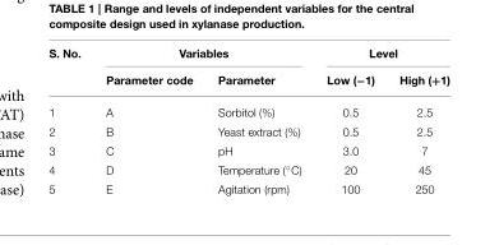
<table><thead><tr><td rowspan="2">S. No.</td><td colspan="2">Variables</td><td colspan="2">Level</td></tr><tr><td>Parameter code</td><td>Parameter</td><td>Low (−1)</td><td>High (+1)</td></tr></thead><tbody><tr><td>1</td><td>A</td><td>Sorbitol (%)</td><td>0.5</td><td>2.5</td></tr><tr><td>2</td><td>B</td><td>Yeast extract (%)</td><td>0.5</td><td>2.5</td></tr><tr><td>3</td><td>C</td><td>pH</td><td>3.0</td><td>7</td></tr><tr><td>4</td><td>D</td><td>Temperature (◦C)</td><td>20</td><td>45</td></tr><tr><td>5</td><td>E</td><td>Agitation (rpm)</td><td>100</td><td>250</td></tr></tbody></table>